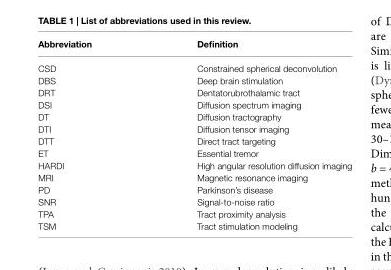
<table><thead><tr><td>Abbreviation</td><td>Definition</td></tr></thead><tbody><tr><td>CSD</td><td>Constrained spherical deconvolution</td></tr><tr><td>DBS</td><td>Deep brain stimulation</td></tr><tr><td>DRT</td><td>Dentatorubrothalamic tract</td></tr><tr><td>DSI</td><td>Diffusion spectrum imaging</td></tr><tr><td>DT</td><td>Diffusion tractography</td></tr><tr><td>DTI</td><td>Diffusion tensor imaging</td></tr><tr><td>DTT</td><td>Direct tract targeting</td></tr><tr><td>ET</td><td>Essential tremor</td></tr><tr><td>HARDI</td><td>High angular resolution diffusion imaging</td></tr><tr><td>MRI</td><td>Magnetic resonance imaging</td></tr><tr><td>PD</td><td>Parkinson’s disease</td></tr><tr><td>SNR</td><td>Signal-to-noise ratio</td></tr><tr><td>TPA</td><td>Tract proximity analysis</td></tr><tr><td>TSM</td><td>Tract stimulation modeling</td></tr></tbody></table>